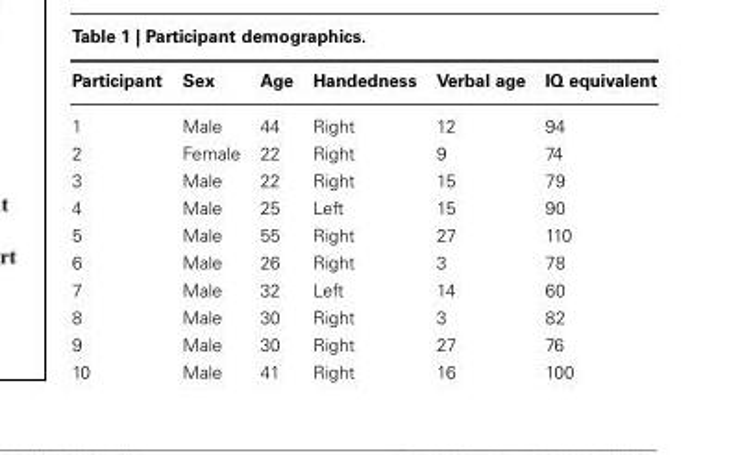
<table><thead><tr><td>Participant</td><td>Sex</td><td>Age</td><td>Handedness</td><td>Verbal age</td><td>IQ equivalent</td></tr></thead><tbody><tr><td>1</td><td>Male</td><td>44</td><td>Right</td><td>12</td><td>94</td></tr><tr><td>2</td><td>Female</td><td>22</td><td>Right</td><td>9</td><td>74</td></tr><tr><td>3</td><td>Male</td><td>22</td><td>Right</td><td>15</td><td>79</td></tr><tr><td>4</td><td>Male</td><td>25</td><td>Left</td><td>15</td><td>90</td></tr><tr><td>5</td><td>Male</td><td>55</td><td>Right</td><td>27</td><td>110</td></tr><tr><td>6</td><td>Male</td><td>26</td><td>Right</td><td>3</td><td>78</td></tr><tr><td>7</td><td>Male</td><td>32</td><td>Left</td><td>14</td><td>60</td></tr><tr><td>8</td><td>Male</td><td>30</td><td>Right</td><td>3</td><td>82</td></tr><tr><td>9</td><td>Male</td><td>30</td><td>Right</td><td>27</td><td>76</td></tr><tr><td>10</td><td>Male</td><td>41</td><td>Right</td><td>16</td><td>100</td></tr></tbody></table>